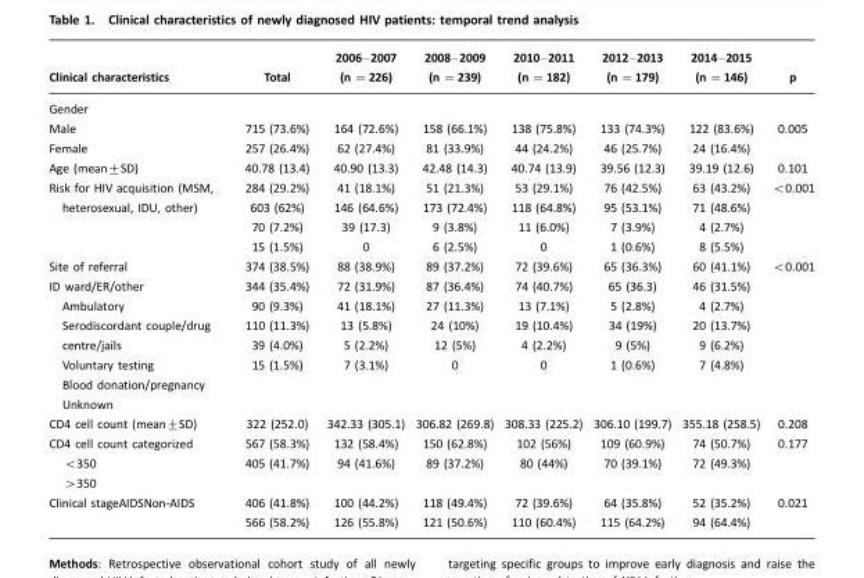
<table><thead><tr><td>Clinical characteristics</td><td>Total</td><td>2006–2007 (n =226)</td><td>2008–2009 (n =239)</td><td>2010–2011 (n =182)</td><td>2012–2013 (n =179)</td><td>2014–2015 (n =146)</td><td>p</td></tr></thead><tbody><tr><td colspan="8">Gender</td></tr><tr><td>Male</td><td>715 (73.6%)</td><td>164 (72.6%)</td><td>158 (66.1%)</td><td>138 (75.8%)</td><td>133 (74.3%)</td><td>122 (83.6%)</td><td>0.005</td></tr><tr><td>Female</td><td>257 (26.4%)</td><td>62 (27.4%)</td><td>81 (33.9%)</td><td>44 (24.2%)</td><td>46 (25.7%)</td><td>24 (16.4%)</td><td></td></tr><tr><td>Age (mean±SD)</td><td>40.78 (13.4)</td><td>40.90 (13.3)</td><td>42.48 (14.3)</td><td>40.74 (13.9)</td><td>39.56 (12.3)</td><td>39.19 (12.6)</td><td>0.101</td></tr><tr><td>Risk for HIV acquisition (MSM, heterosexual, IDU, other)</td><td>284 (29.2%) 603 (62%) 70 (7.2%) 15 (1.5%)</td><td>41 (18.1%) 146 (64.6%) 39 (17.3) 0</td><td>51 (21.3%) 173 (72.4%) 9 (3.8%) 6 (2.5%)</td><td>53 (29.1%) 118 (64.8%) 11 (6.0%) 0</td><td>76 (42.5%) 95 (53.1%) 7 (3.9%) 1 (0.6%)</td><td>63 (43.2%) 71 (48.6%) 4 (2.7%) 8 (5.5%)</td><td>&lt;0.001</td></tr><tr><td>Site of referral</td><td>374 (38.5%)</td><td>88 (38.9%)</td><td>89 (37.2%)</td><td>72 (39.6%)</td><td>65 (36.3%)</td><td>60 (41.1%)</td><td>&lt;0.001</td></tr><tr><td>ID ward/ER/other Ambulatory Serodiscordant couple/drug centre/jails Voluntary testing Blood donation/pregnancy Unknown</td><td>344 (35.4%) 90 (9.3%) 110 (11.3%) 39 (4.0%) 15 (1.5%)</td><td>72 (31.9%) 41 (18.1%) 13 (5.8%) 5 (2.2%) 7 (3.1%)</td><td>87 (36.4%) 27 (11.3%) 24 (10%) 12 (5%) 0</td><td>74 (40.7%) 13 (7.1%) 19 (10.4%) 4 (2.2%) 0</td><td>65 (36.3) 5 (2.8%) 34 (19%) 9 (5%) 1 (0.6%)</td><td>46 (31.5%) 4 (2.7%) 20 (13.7%) 9 (6.2%) 7 (4.8%)</td><td></td></tr><tr><td>CD4 cell count (mean±SD)</td><td>322 (252.0)</td><td>342.33 (305.1)</td><td>306.82 (269.8)</td><td>308.33 (225.2)</td><td>306.10 (199.7)</td><td>355.18 (258.5)</td><td>0.208</td></tr><tr><td>CD4 cell count categorized &lt;350 &gt;350</td><td>567 (58.3%) 405 (41.7%)</td><td>132 (58.4%) 94 (41.6%)</td><td>150 (62.8%) 89 (37.2%)</td><td>102 (56%) 80 (44%)</td><td>109 (60.9%) 70 (39.1%)</td><td>74 (50.7%) 72 (49.3%)</td><td>0.177</td></tr><tr><td>Clinical stageAIDSNon-AIDS</td><td>406 (41.8%) 566 (58.2%)</td><td>100 (44.2%) 126 (55.8%)</td><td>118 (49.4%) 121 (50.6%)</td><td>72 (39.6%) 110 (60.4%)</td><td>64 (35.8%) 115 (64.2%)</td><td>52 (35.2%) 94 (64.4%)</td><td>0.021</td></tr></tbody></table>